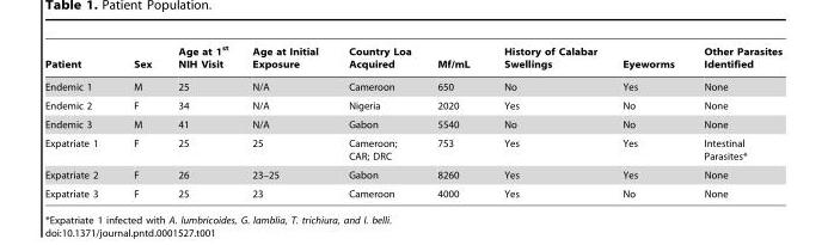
<table><thead><tr><td>Patient</td><td>Sex</td><td>Age at 1<sup>st</sup> NIH Visit</td><td>Age at Initial Exposure</td><td>Country Loa Acquired</td><td>Mf/mL</td><td>History of Calabar Swellings</td><td>Eyeworms</td><td>Other Parasites Identified</td></tr></thead><tbody><tr><td>Endemic 1</td><td>M</td><td>25</td><td>N/A</td><td>Cameroon</td><td>650</td><td>No</td><td>Yes</td><td>None</td></tr><tr><td>Endemic 2</td><td>F</td><td>34</td><td>N/A</td><td>Nigeria</td><td>2020</td><td>Yes</td><td>No</td><td>None</td></tr><tr><td>Endemic 3</td><td>M</td><td>41</td><td>N/A</td><td>Gabon</td><td>5540</td><td>No</td><td>No</td><td>None</td></tr><tr><td>Expatriate 1</td><td>F</td><td>25</td><td>25</td><td>Cameroon; CAR; DRC</td><td>753</td><td>Yes</td><td>Yes</td><td>Intestinal Parasites*</td></tr><tr><td>Expatriate 2</td><td>F</td><td>26</td><td>23–25</td><td>Gabon</td><td>8260</td><td>Yes</td><td>Yes</td><td>None</td></tr><tr><td>Expatriate 3</td><td>F</td><td>25</td><td>23</td><td>Cameroon</td><td>4000</td><td>Yes</td><td>No</td><td>None</td></tr></tbody></table>